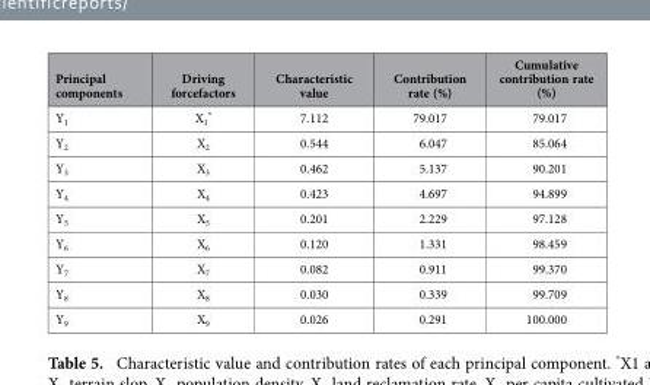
<table><thead><tr><td>Principal components</td><td>Driving forcefactors</td><td>Characteristic value</td><td>Contribution rate (%)</td><td>Cumulative contribution rate (%)</td></tr></thead><tbody><tr><td>Y<sub>1</sub></td><td>X<sub>1</sub> *</td><td>7.112</td><td>79.017</td><td>79.017</td></tr><tr><td>Y<sub>2</sub></td><td>X<sub>2</sub></td><td>0.544</td><td>6.047</td><td>85.064</td></tr><tr><td>Y<sub>3</sub></td><td>X<sub>3</sub></td><td>0.462</td><td>5.137</td><td>90.201</td></tr><tr><td>Y<sub>4</sub></td><td>X<sub>4</sub></td><td>0.423</td><td>4.697</td><td>94.899</td></tr><tr><td>Y<sub>5</sub></td><td>X<sub>5</sub></td><td>0.201</td><td>2.229</td><td>97.128</td></tr><tr><td>Y<sub>6</sub></td><td>X<sub>6</sub></td><td>0.120</td><td>1.331</td><td>98.459</td></tr><tr><td>Y<sub>7</sub></td><td>X<sub>7</sub></td><td>0.082</td><td>0.911</td><td>99.370</td></tr><tr><td>Y<sub>8</sub></td><td>X<sub>8</sub></td><td>0.030</td><td>0.339</td><td>99.709</td></tr><tr><td>Y<sub>9</sub></td><td>X<sub>9</sub></td><td>0.026</td><td>0.291</td><td>100.000</td></tr></tbody></table>